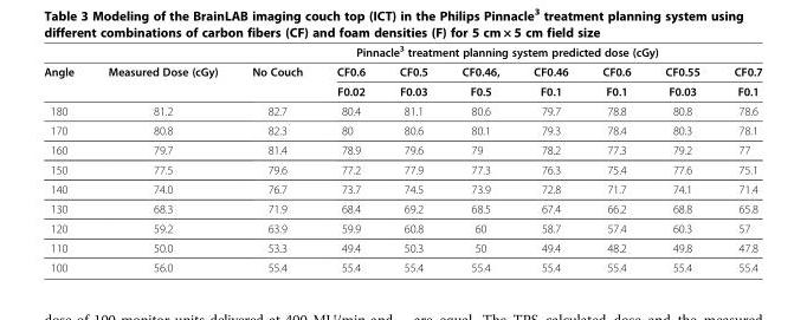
<table><thead><tr><td rowspan="2">Angle</td><td rowspan="2">Measured Dose (cGy)</td><td colspan="8">Pinnacle<sup>3</sup> treatment planning system predicted dose (cGy)</td></tr><tr><td>No Couch</td><td>CF0.6</td><td>CF0.5</td><td>CF0.46,</td><td>CF0.46</td><td>CF0.6</td><td>CF0.55</td><td>CF0.7</td></tr></thead><tbody><tr><td></td><td></td><td></td><td>F0.02</td><td>F0.03</td><td>F0.5</td><td>F0.1</td><td>F0.1</td><td>F0.03</td><td>F0.1</td></tr><tr><td>180</td><td>81.2</td><td>82.7</td><td>80.4</td><td>81.1</td><td>80.6</td><td>79.7</td><td>78.8</td><td>80.8</td><td>78.6</td></tr><tr><td>170</td><td>80.8</td><td>82.3</td><td>80</td><td>80.6</td><td>80.1</td><td>79.3</td><td>78.4</td><td>80.3</td><td>78.1</td></tr><tr><td>160</td><td>79.7</td><td>81.4</td><td>78.9</td><td>79.6</td><td>79</td><td>78.2</td><td>77.3</td><td>79.2</td><td>77</td></tr><tr><td>150</td><td>77.5</td><td>79.6</td><td>77.2</td><td>77.9</td><td>77.3</td><td>76.3</td><td>75.4</td><td>77.6</td><td>75.1</td></tr><tr><td>140</td><td>74.0</td><td>76.7</td><td>73.7</td><td>74.5</td><td>73.9</td><td>72.8</td><td>71.7</td><td>74.1</td><td>71.4</td></tr><tr><td>130</td><td>68.3</td><td>71.9</td><td>68.4</td><td>69.2</td><td>68.5</td><td>67.4</td><td>66.2</td><td>68.8</td><td>65.8</td></tr><tr><td>120</td><td>59.2</td><td>63.9</td><td>59.9</td><td>60.8</td><td>60</td><td>58.7</td><td>57.4</td><td>60.3</td><td>57</td></tr><tr><td>110</td><td>50.0</td><td>53.3</td><td>49.4</td><td>50.3</td><td>50</td><td>49.4</td><td>48.2</td><td>49.8</td><td>47.8</td></tr><tr><td>100</td><td>56.0</td><td>55.4</td><td>55.4</td><td>55.4</td><td>55.4</td><td>55.4</td><td>55.4</td><td>55.4</td><td>55.4</td></tr></tbody></table>